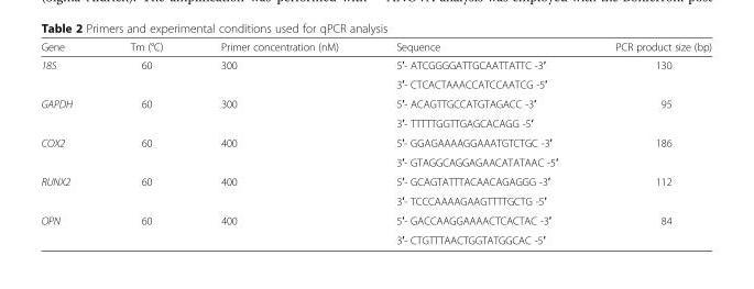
<table><thead><tr><td>Gene</td><td>Tm (°C)</td><td>Primer concentration (nM)</td><td>Sequence</td><td>PCR product size (bp)</td></tr></thead><tbody><tr><td rowspan="2">18S</td><td rowspan="2">60</td><td rowspan="2">300</td><td>5′- ATCGGGGATTGCAATTATTC -3′</td><td rowspan="2">130</td></tr><tr><td>3′- CTCACTAAACCATCCAATCG -5′</td></tr><tr><td rowspan="2">GAPDH</td><td rowspan="2">60</td><td rowspan="2">300</td><td>5′- ACAGTTGCCATGTAGACC -3′</td><td rowspan="2">95</td></tr><tr><td>3′- TTTTTGGTTGAGCACAGG -5′</td></tr><tr><td rowspan="2">COX2</td><td rowspan="2">60</td><td rowspan="2">400</td><td>5′- GGAGAAAAGGAAATGTCTGC -3′</td><td rowspan="2">186</td></tr><tr><td>3′- GTAGGCAGGAGAACATATAAC -5′</td></tr><tr><td rowspan="2">RUNX2</td><td rowspan="2">60</td><td rowspan="2">400</td><td>5′- GCAGTATTTACAACAGAGGG -3′</td><td rowspan="2">112</td></tr><tr><td>3′- TCCCAAAAGAAGTTTTGCTG -5′</td></tr><tr><td rowspan="2">OPN</td><td rowspan="2">60</td><td rowspan="2">400</td><td>5′- GACCAAGGAAAACTCACTAC -3′</td><td rowspan="2">84</td></tr><tr><td>3′- CTGTTTAACTGGTATGGCAC -5′</td></tr></tbody></table>